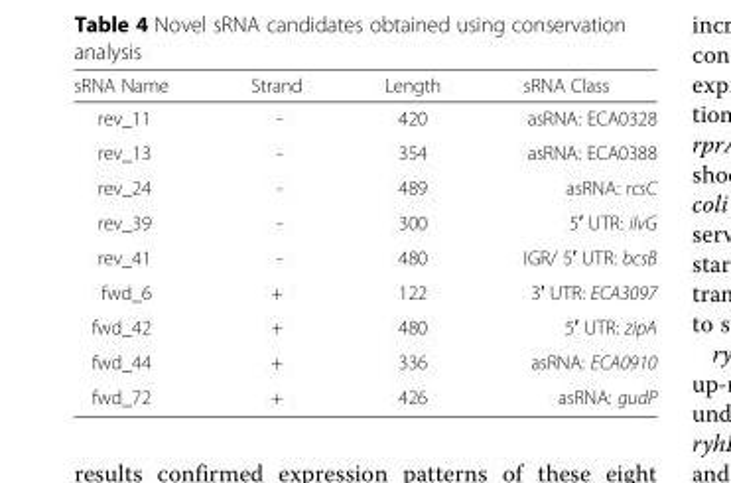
<table><thead><tr><td>sRNA Name</td><td>Strand</td><td>Length</td><td>sRNA Class</td></tr></thead><tbody><tr><td>rev_11</td><td>-</td><td>420</td><td>asRNA: ECA0328</td></tr><tr><td>rev_13</td><td>-</td><td>354</td><td>asRNA: ECA0388</td></tr><tr><td>rev_24</td><td>-</td><td>489</td><td>asRNA: rcsC</td></tr><tr><td>rev_39</td><td>-</td><td>300</td><td>5′ UTR: ilvG</td></tr><tr><td>rev_41</td><td>-</td><td>480</td><td>IGR/ 5′ UTR: bcsB</td></tr><tr><td>fwd_6</td><td>+</td><td>122</td><td>3′ UTR: ECA3097</td></tr><tr><td>fwd_42</td><td>+</td><td>480</td><td>5′ UTR: zipA</td></tr><tr><td>fwd_44</td><td>+</td><td>336</td><td>asRNA: ECA0910</td></tr><tr><td>fwd_72</td><td>+</td><td>426</td><td>asRNA: gudP</td></tr></tbody></table>